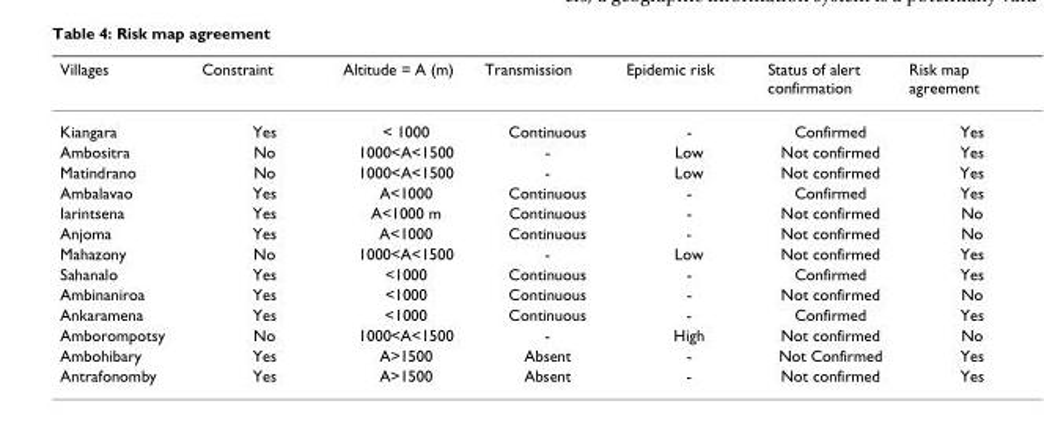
<table><thead><tr><td>Villages</td><td>Constraint</td><td>Altitude = A (m)</td><td>Transmission</td><td>Epidemic risk</td><td>Status of alert confirmation</td><td>Risk map agreement</td></tr></thead><tbody><tr><td>Kiangara</td><td>Yes</td><td>&lt; 1000</td><td>Continuous</td><td>-</td><td>Confirmed</td><td>Yes</td></tr><tr><td>Ambositra</td><td>No</td><td>1000&lt;A&lt;1500</td><td>-</td><td>Low</td><td>Not confirmed</td><td>Yes</td></tr><tr><td>Matindrano</td><td>No</td><td>1000&lt;A&lt;1500</td><td>-</td><td>Low</td><td>Not confirmed</td><td>Yes</td></tr><tr><td>Ambalavao</td><td>Yes</td><td>A&lt;1000</td><td>Continuous</td><td>-</td><td>Confirmed</td><td>Yes</td></tr><tr><td>Iarintsena</td><td>Yes</td><td>A&lt;1000 m</td><td>Continuous</td><td>-</td><td>Not confirmed</td><td>No</td></tr><tr><td>Anjoma</td><td>Yes</td><td>A&lt;1000</td><td>Continuous</td><td>-</td><td>Not confirmed</td><td>No</td></tr><tr><td>Mahazony</td><td>No</td><td>1000&lt;A&lt;1500</td><td>-</td><td>Low</td><td>Not confirmed</td><td>Yes</td></tr><tr><td>Sahanalo</td><td>Yes</td><td>&lt;1000</td><td>Continuous</td><td>-</td><td>Confirmed</td><td>Yes</td></tr><tr><td>Ambinaniroa</td><td>Yes</td><td>&lt;1000</td><td>Continuous</td><td>-</td><td>Not confirmed</td><td>No</td></tr><tr><td>Ankaramena</td><td>Yes</td><td>&lt;1000</td><td>Continuous</td><td>-</td><td>Confirmed</td><td>Yes</td></tr><tr><td>Amborompotsy</td><td>No</td><td>1000&lt;A&lt;1500</td><td>-</td><td>High</td><td>Not confirmed</td><td>No</td></tr><tr><td>Ambohibary</td><td>Yes</td><td>A&gt;1500</td><td>Absent</td><td>-</td><td>Not Confirmed</td><td>Yes</td></tr><tr><td>Antrafonomby</td><td>Yes</td><td>A&gt;1500</td><td>Absent</td><td>-</td><td>Not confirmed</td><td>Yes</td></tr></tbody></table>